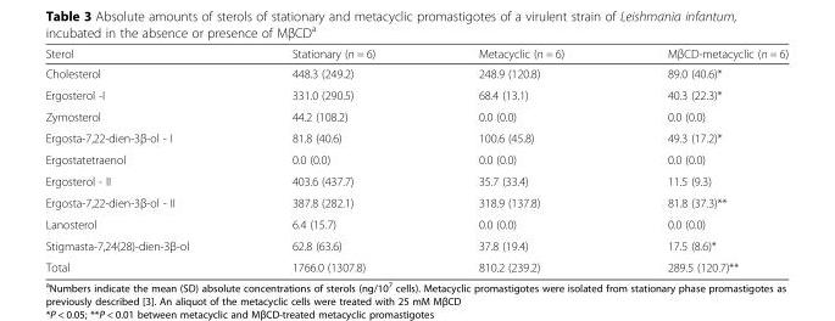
<table><thead><tr><td>Sterol</td><td>Stationary (n = 6)</td><td>Metacyclic (n = 6)</td><td>MβCD-metacyclic (n = 6)</td></tr></thead><tbody><tr><td>Cholesterol</td><td>448.3 (249.2)</td><td>248.9 (120.8)</td><td>89.0 (40.6)*</td></tr><tr><td>Ergosterol -I</td><td>331.0 (290.5)</td><td>68.4 (13.1)</td><td>40.3 (22.3)*</td></tr><tr><td>Zymosterol</td><td>44.2 (108.2)</td><td>0.0 (0.0)</td><td>0.0 (0.0)</td></tr><tr><td>Ergosta-7,22-dien-3β-ol - I</td><td>81.8 (40.6)</td><td>100.6 (45.8)</td><td>49.3 (17.2)*</td></tr><tr><td>Ergostatetraenol</td><td>0.0 (0.0)</td><td>0.0 (0.0)</td><td>0.0 (0.0)</td></tr><tr><td>Ergosterol - II</td><td>403.6 (437.7)</td><td>35.7 (33.4)</td><td>11.5 (9.3)</td></tr><tr><td>Ergosta-7,22-dien-3β-ol - II</td><td>387.8 (282.1)</td><td>318.9 (137.8)</td><td>81.8 (37.3)**</td></tr><tr><td>Lanosterol</td><td>6.4 (15.7)</td><td>0.0 (0.0)</td><td>0.0 (0.0)</td></tr><tr><td>Stigmasta-7,24(28)-dien-3β-ol</td><td>62.8 (63.6)</td><td>37.8 (19.4)</td><td>17.5 (8.6)*</td></tr><tr><td>Total</td><td>1766.0 (1307.8)</td><td>810.2 (239.2)</td><td>289.5 (120.7)**</td></tr></tbody></table>